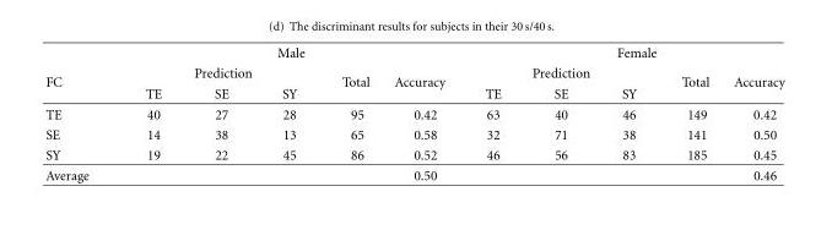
<table><thead><tr><td rowspan="3">FC</td><td colspan="5">Male</td><td colspan="5">Female</td></tr><tr><td colspan="3">Prediction</td><td rowspan="2">Total</td><td rowspan="2">Accuracy</td><td colspan="3">Prediction</td><td rowspan="2">Total</td><td rowspan="2">Accuracy</td></tr><tr><td>TE</td><td>SE</td><td>SY</td><td>TE</td><td>SE</td><td>SY</td></tr></thead><tbody><tr><td>TE</td><td>40</td><td>27</td><td>28</td><td>95</td><td>0.42</td><td>63</td><td>40</td><td>46</td><td>149</td><td>0.42</td></tr><tr><td>SE</td><td>14</td><td>38</td><td>13</td><td>65</td><td>0.58</td><td>32</td><td>71</td><td>38</td><td>141</td><td>0.50</td></tr><tr><td>SY</td><td>19</td><td>22</td><td>45</td><td>86</td><td>0.52</td><td>46</td><td>56</td><td>83</td><td>185</td><td>0.45</td></tr><tr><td>Average</td><td></td><td></td><td></td><td></td><td>0.50</td><td></td><td></td><td></td><td></td><td>0.46</td></tr></tbody></table>